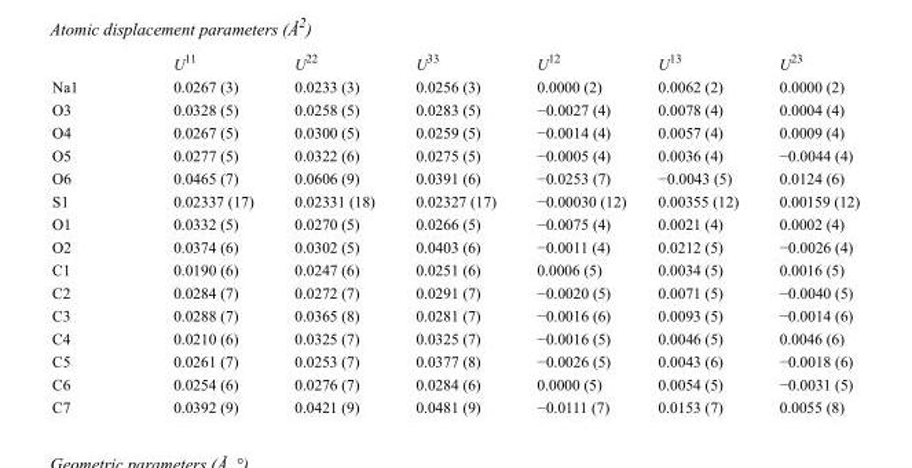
<table><thead><tr><td></td><td>U<sup>11</sup></td><td>U<sup>22</sup></td><td>U<sup>33</sup></td><td>U<sup>12</sup></td><td>U<sup>13</sup></td><td>U<sup>23</sup></td></tr></thead><tbody><tr><td>Na1</td><td>0.0267 (3)</td><td>0.0233 (3)</td><td>0.0256 (3)</td><td>0.0000 (2)</td><td>0.0062 (2)</td><td>0.0000 (2)</td></tr><tr><td>O3</td><td>0.0328 (5)</td><td>0.0258 (5)</td><td>0.0283 (5)</td><td>−0.0027 (4)</td><td>0.0078 (4)</td><td>0.0004 (4)</td></tr><tr><td>O4</td><td>0.0267 (5)</td><td>0.0300 (5)</td><td>0.0259 (5)</td><td>−0.0014 (4)</td><td>0.0057 (4)</td><td>0.0009 (4)</td></tr><tr><td>O5</td><td>0.0277 (5)</td><td>0.0322 (6)</td><td>0.0275 (5)</td><td>−0.0005 (4)</td><td>0.0036 (4)</td><td>−0.0044 (4)</td></tr><tr><td>O6</td><td>0.0465 (7)</td><td>0.0606 (9)</td><td>0.0391 (6)</td><td>−0.0253 (7)</td><td>−0.0043 (5)</td><td>0.0124 (6)</td></tr><tr><td>S1</td><td>0.02337 (17)</td><td>0.02331 (18)</td><td>0.02327 (17)</td><td>−0.00030 (12)</td><td>0.00355 (12)</td><td>0.00159 (12)</td></tr><tr><td>O1</td><td>0.0332 (5)</td><td>0.0270 (5)</td><td>0.0266 (5)</td><td>−0.0075 (4)</td><td>0.0021 (4)</td><td>0.0002 (4)</td></tr><tr><td>O2</td><td>0.0374 (6)</td><td>0.0302 (5)</td><td>0.0403 (6)</td><td>−0.0011 (4)</td><td>0.0212 (5)</td><td>−0.0026 (4)</td></tr><tr><td>C1</td><td>0.0190 (6)</td><td>0.0247 (6)</td><td>0.0251 (6)</td><td>0.0006 (5)</td><td>0.0034 (5)</td><td>0.0016 (5)</td></tr><tr><td>C2</td><td>0.0284 (7)</td><td>0.0272 (7)</td><td>0.0291 (7)</td><td>−0.0020 (5)</td><td>0.0071 (5)</td><td>−0.0040 (5)</td></tr><tr><td>C3</td><td>0.0288 (7)</td><td>0.0365 (8)</td><td>0.0281 (7)</td><td>−0.0016 (6)</td><td>0.0093 (5)</td><td>−0.0014 (6)</td></tr><tr><td>C4</td><td>0.0210 (6)</td><td>0.0325 (7)</td><td>0.0325 (7)</td><td>−0.0016 (5)</td><td>0.0046 (5)</td><td>0.0046 (6)</td></tr><tr><td>C5</td><td>0.0261 (7)</td><td>0.0253 (7)</td><td>0.0377 (8)</td><td>−0.0026 (5)</td><td>0.0043 (6)</td><td>−0.0018 (6)</td></tr><tr><td>C6</td><td>0.0254 (6)</td><td>0.0276 (7)</td><td>0.0284 (6)</td><td>0.0000 (5)</td><td>0.0054 (5)</td><td>−0.0031 (5)</td></tr><tr><td>C7</td><td>0.0392 (9)</td><td>0.0421 (9)</td><td>0.0481 (9)</td><td>−0.0111 (7)</td><td>0.0153 (7)</td><td>0.0055 (8)</td></tr></tbody></table>